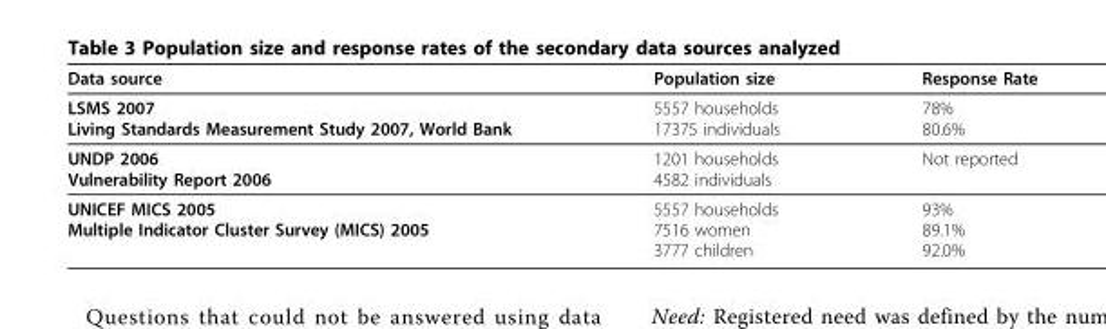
<table><thead><tr><td>Data source</td><td>Population size</td><td>Response Rate</td></tr></thead><tbody><tr><td>LSMS 2007 Living Standards Measurement Study 2007, World Bank</td><td>5557 households 17375 individuals</td><td>78% 80.6%</td></tr><tr><td>UNDP 2006 Vulnerability Report 2006</td><td>1201 households 4582 individuals</td><td>Not reported</td></tr><tr><td>UNICEF MICS 2005 Multiple Indicator Cluster Survey (MICS) 2005</td><td>5557 households 7516 women 3777 children</td><td>93% 89.1% 92.0%</td></tr></tbody></table>